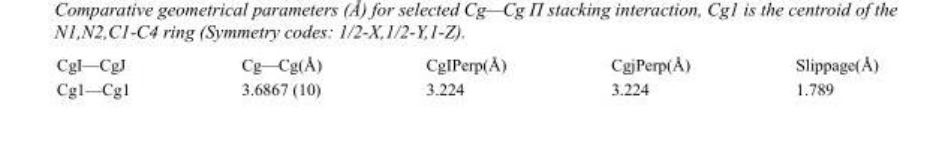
<table><tbody><tr><td>CgI—CgJ</td><td>Cg—Cg(Å)</td><td>CgIPerp(Å)</td><td>CgjPerp(Å)</td><td>Slippage(Å)</td></tr><tr><td>Cg1—Cg1</td><td>3.6867 (10)</td><td>3.224</td><td>3.224</td><td>1.789</td></tr></tbody></table>